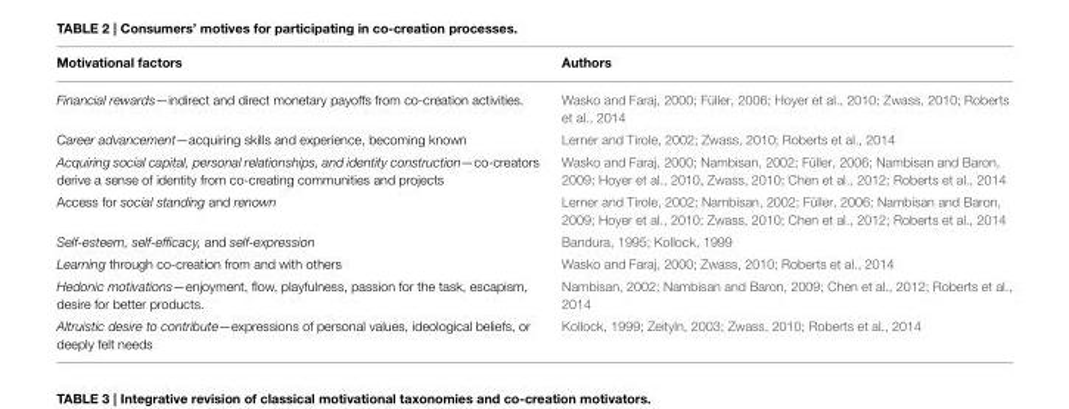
<table><thead><tr><td>Motivational factors</td><td>Authors</td></tr></thead><tbody><tr><td>Financial rewards—indirect and direct monetary payoffs from co-creation activities.</td><td>Wasko and Faraj, 2000; Füller, 2006; Hoyer et al., 2010; Zwass, 2010; Roberts et al., 2014</td></tr><tr><td>Career advancement—acquiring skills and experience, becoming known</td><td>Lerner and Tirole, 2002; Zwass, 2010; Roberts et al., 2014</td></tr><tr><td>Acquiring social capital, personal relationships, and identity construction—co-creators derive a sense of identity from co-creating communities and projects</td><td>Wasko and Faraj, 2000; Nambisan, 2002; Füller, 2006; Nambisan and Baron, 2009; Hoyer et al., 2010, Zwass, 2010; Chen et al., 2012; Roberts et al., 2014</td></tr><tr><td>Access for social standing and renown</td><td>Lerner and Tirole, 2002; Nambisan, 2002; Füller, 2006; Nambisan and Baron, 2009; Hoyer et al., 2010; Zwass, 2010; Chen et al., 2012; Roberts et al., 2014</td></tr><tr><td>Self-esteem, self-efficacy, and self-expression</td><td>Bandura, 1995; Kollock, 1999</td></tr><tr><td>Learning through co-creation from and with others</td><td>Wasko and Faraj, 2000; Zwass, 2010; Roberts et al., 2014</td></tr><tr><td>Hedonic motivations—enjoyment, flow, playfulness, passion for the task, escapism, desire for better products.</td><td>Nambisan, 2002; Nambisan and Baron, 2009; Chen et al., 2012; Roberts et al., 2014</td></tr><tr><td>Altruistic desire to contribute—expressions of personal values, ideological beliefs, or deeply felt needs</td><td>Kollock, 1999; Zeityln, 2003; Zwass, 2010; Roberts et al., 2014</td></tr></tbody></table>